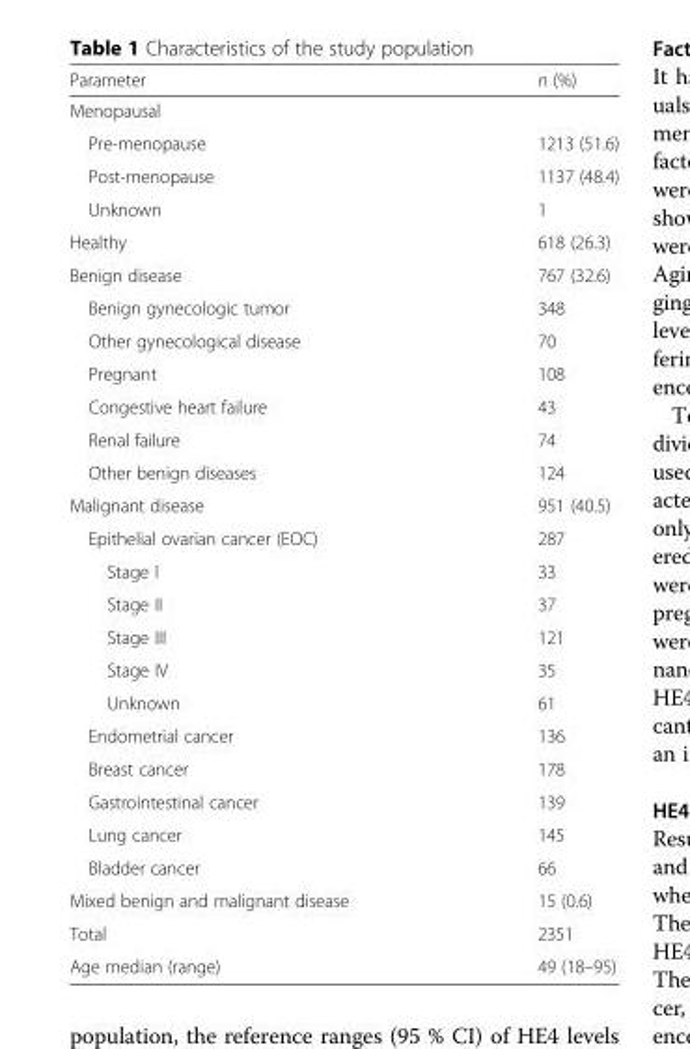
<table><thead><tr><td>Parameter</td><td>n (%)</td></tr></thead><tbody><tr><td colspan="2">Menopausal</td></tr><tr><td>Pre-menopause</td><td>1213 (51.6)</td></tr><tr><td>Post-menopause</td><td>1137 (48.4)</td></tr><tr><td>Unknown</td><td>1</td></tr><tr><td>Healthy</td><td>618 (26.3)</td></tr><tr><td>Benign disease</td><td>767 (32.6)</td></tr><tr><td>Benign gynecologic tumor</td><td>348</td></tr><tr><td>Other gynecological disease</td><td>70</td></tr><tr><td>Pregnant</td><td>108</td></tr><tr><td>Congestive heart failure</td><td>43</td></tr><tr><td>Renal failure</td><td>74</td></tr><tr><td>Other benign diseases</td><td>124</td></tr><tr><td>Malignant disease</td><td>951 (40.5)</td></tr><tr><td>Epithelial ovarian cancer (EOC)</td><td>287</td></tr><tr><td>Stage I</td><td>33</td></tr><tr><td>Stage II</td><td>37</td></tr><tr><td>Stage III</td><td>121</td></tr><tr><td>Stage IV</td><td>35</td></tr><tr><td>Unknown</td><td>61</td></tr><tr><td>Endometrial cancer</td><td>136</td></tr><tr><td>Breast cancer</td><td>178</td></tr><tr><td>Gastrointestinal cancer</td><td>139</td></tr><tr><td>Lung cancer</td><td>145</td></tr><tr><td>Bladder cancer</td><td>66</td></tr><tr><td>Mixed benign and malignant disease</td><td>15 (0.6)</td></tr><tr><td>Total</td><td>2351</td></tr><tr><td>Age median (range)</td><td>49 (18–95)</td></tr></tbody></table>